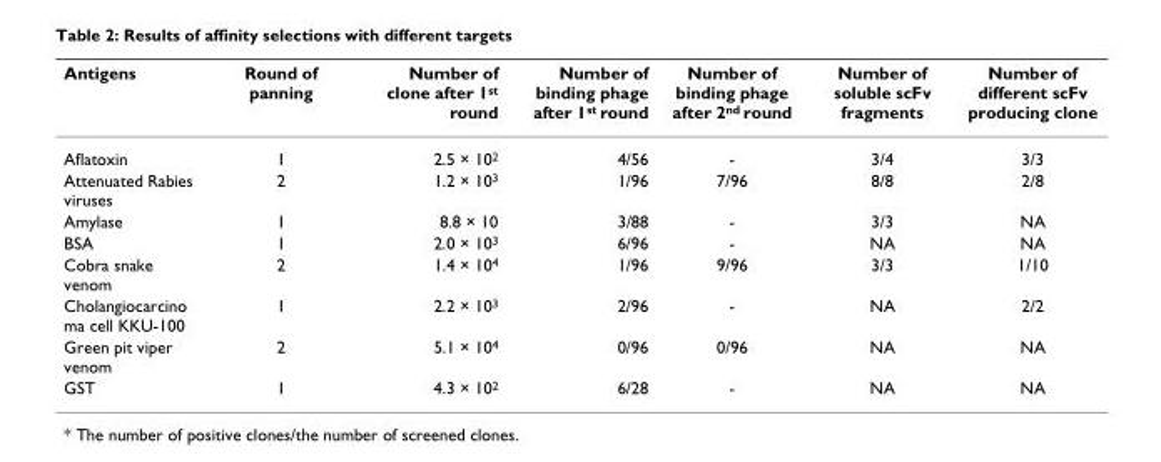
<table><thead><tr><td>Antigens</td><td>Round of panning</td><td>Number of clone after 1<sup>st</sup> round</td><td>Number of binding phage after 1<sup>st</sup> round</td><td>Number of binding phage after 2<sup>nd</sup> round</td><td>Number of soluble scFv fragments</td><td>Number of different scFv producing clone</td></tr></thead><tbody><tr><td>Aflatoxin</td><td>1</td><td>2.5 × 10<sup>2</sup></td><td>4/56</td><td>-</td><td>3/4</td><td>3/3</td></tr><tr><td>Attenuated Rabies viruses</td><td>2</td><td>1.2 × 10<sup>3</sup></td><td>1/96</td><td>7/96</td><td>8/8</td><td>2/8</td></tr><tr><td>Amylase</td><td>1</td><td>8.8 × 10</td><td>3/88</td><td>-</td><td>3/3</td><td>NA</td></tr><tr><td>BSA</td><td>1</td><td>2.0 × 10<sup>3</sup></td><td>6/96</td><td>-</td><td>NA</td><td>NA</td></tr><tr><td>Cobra snake venom</td><td>2</td><td>1.4 × 10<sup>4</sup></td><td>1/96</td><td>9/96</td><td>3/3</td><td>1/10</td></tr><tr><td>Cholangiocarcino ma cell KKU-100</td><td>1</td><td>2.2 × 10<sup>3</sup></td><td>2/96</td><td>-</td><td>NA</td><td>2/2</td></tr><tr><td>Green pit viper venom</td><td>2</td><td>5.1 × 10<sup>4</sup></td><td>0/96</td><td>0/96</td><td>NA</td><td>NA</td></tr><tr><td>GST</td><td>1</td><td>4.3 × 10<sup>2</sup></td><td>6/28</td><td>-</td><td>NA</td><td>NA</td></tr></tbody></table>